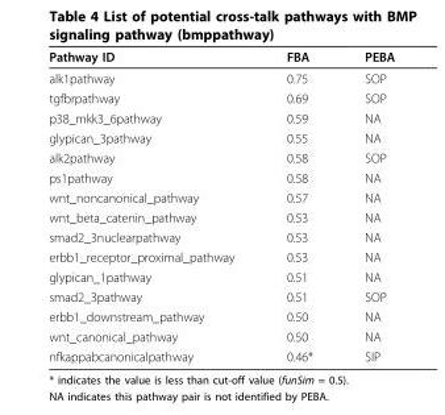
<table><thead><tr><td>Pathway ID</td><td>FBA</td><td>PEBA</td></tr></thead><tbody><tr><td>alk1pathway</td><td>0.75</td><td>SOP</td></tr><tr><td>tgfbrpathway</td><td>0.69</td><td>SOP</td></tr><tr><td>p38_mkk3_6pathway</td><td>0.59</td><td>NA</td></tr><tr><td>glypican_3pathway</td><td>0.55</td><td>NA</td></tr><tr><td>alk2pathway</td><td>0.58</td><td>SOP</td></tr><tr><td>ps1pathway</td><td>0.58</td><td>NA</td></tr><tr><td>wnt_noncanonical_pathway</td><td>0.57</td><td>NA</td></tr><tr><td>wnt_beta_catenin_pathway</td><td>0.53</td><td>NA</td></tr><tr><td>smad2_3nuclearpathway</td><td>0.53</td><td>NA</td></tr><tr><td>erbb1_receptor_proximal_pathway</td><td>0.53</td><td>NA</td></tr><tr><td>glypican_1pathway</td><td>0.51</td><td>NA</td></tr><tr><td>smad2_3pathway</td><td>0.51</td><td>SOP</td></tr><tr><td>erbb1_downstream_pathway</td><td>0.50</td><td>NA</td></tr><tr><td>wnt_canonical_pathway</td><td>0.50</td><td>NA</td></tr><tr><td>nfkappabcanonicalpathway</td><td>0.46*</td><td>SIP</td></tr></tbody></table>